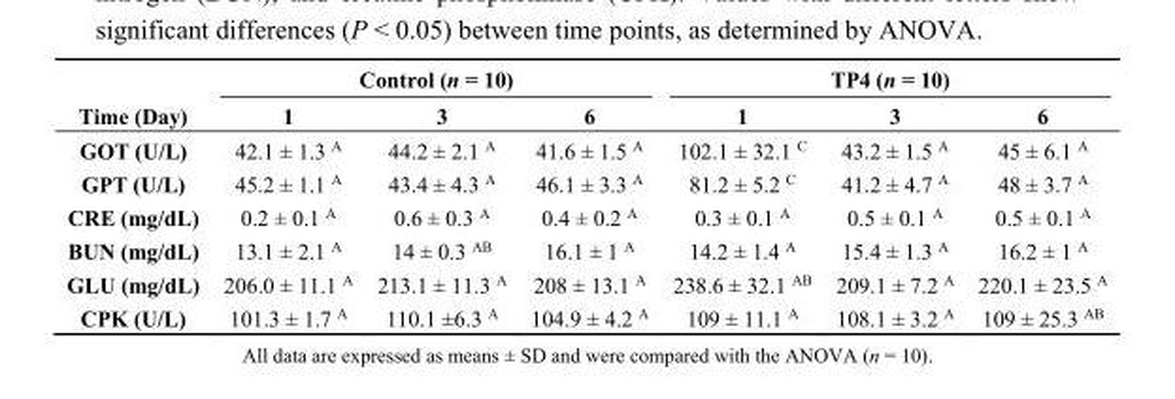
<table><thead><tr><td rowspan="2">Time (Day)</td><td colspan="3">Control (n = 10)</td><td colspan="3">TP4 (n = 10)</td></tr><tr><td>1</td><td>3</td><td>6</td><td>1</td><td>3</td><td>6</td></tr></thead><tbody><tr><td>GOT (U/L)</td><td>42.1 ± 1.3 <sup>A</sup></td><td>44.2 ± 2.1 <sup>A</sup></td><td>41.6 ± 1.5 <sup>A</sup></td><td>102.1 ± 32.1 <sup>C</sup></td><td>43.2 ± 1.5 <sup>A</sup></td><td>45 ± 6.1 <sup>A</sup></td></tr><tr><td>GPT (U/L)</td><td>45.2 ± 1.1 <sup>A</sup></td><td>43.4 ± 4.3 <sup>A</sup></td><td>46.1 ± 3.3 <sup>A</sup></td><td>81.2 ± 5.2 <sup>C</sup></td><td>41.2 ± 4.7 <sup>A</sup></td><td>48 ± 3.7 <sup>A</sup></td></tr><tr><td>CRE (mg/dL)</td><td>0.2 ± 0.1 <sup>A</sup></td><td>0.6 ± 0.3 <sup>A</sup></td><td>0.4 ± 0.2 <sup>A</sup></td><td>0.3 ± 0.1 <sup>A</sup></td><td>0.5 ± 0.1 <sup>A</sup></td><td>0.5 ± 0.1 <sup>A</sup></td></tr><tr><td>BUN (mg/dL)</td><td>13.1 ± 2.1 <sup>A</sup></td><td>14 ± 0.3 <sup>AB</sup></td><td>16.1 ± 1 <sup>A</sup></td><td>14.2 ± 1.4 <sup>A</sup></td><td>15.4 ± 1.3 <sup>A</sup></td><td>16.2 ± 1 <sup>A</sup></td></tr><tr><td>GLU (mg/dL)</td><td>206.0 ± 11.1 <sup>A</sup></td><td>213.1 ± 11.3 <sup>A</sup></td><td>208 ± 13.1 <sup>A</sup></td><td>238.6 ± 32.1 <sup>AB</sup></td><td>209.1 ± 7.2 <sup>A</sup></td><td>220.1 ± 23.5 <sup>A</sup></td></tr><tr><td>CPK (U/L)</td><td>101.3 ± 1.7 <sup>A</sup></td><td>110.1 ±6.3 <sup>A</sup></td><td>104.9 ± 4.2 <sup>A</sup></td><td>109 ± 11.1 <sup>A</sup></td><td>108.1 ± 3.2 <sup>A</sup></td><td>109 ± 25.3 <sup>AB</sup></td></tr></tbody></table>